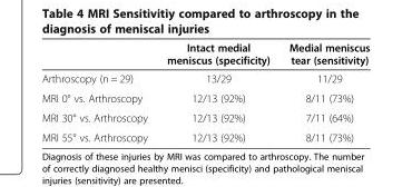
<table><thead><tr><td></td><td>Intact medial meniscus (specificity)</td><td>Medial meniscus tear (sensitivity)</td></tr></thead><tbody><tr><td>Arthroscopy (n = 29)</td><td>13/29</td><td>11/29</td></tr><tr><td>MRI 0° vs. Arthroscopy</td><td>12/13 (92%)</td><td>8/11 (73%)</td></tr><tr><td>MRI 30° vs. Arthroscopy</td><td>12/13 (92%)</td><td>7/11 (64%)</td></tr><tr><td>MRI 55° vs. Arthroscopy</td><td>12/13 (92%)</td><td>8/11 (73%)</td></tr></tbody></table>